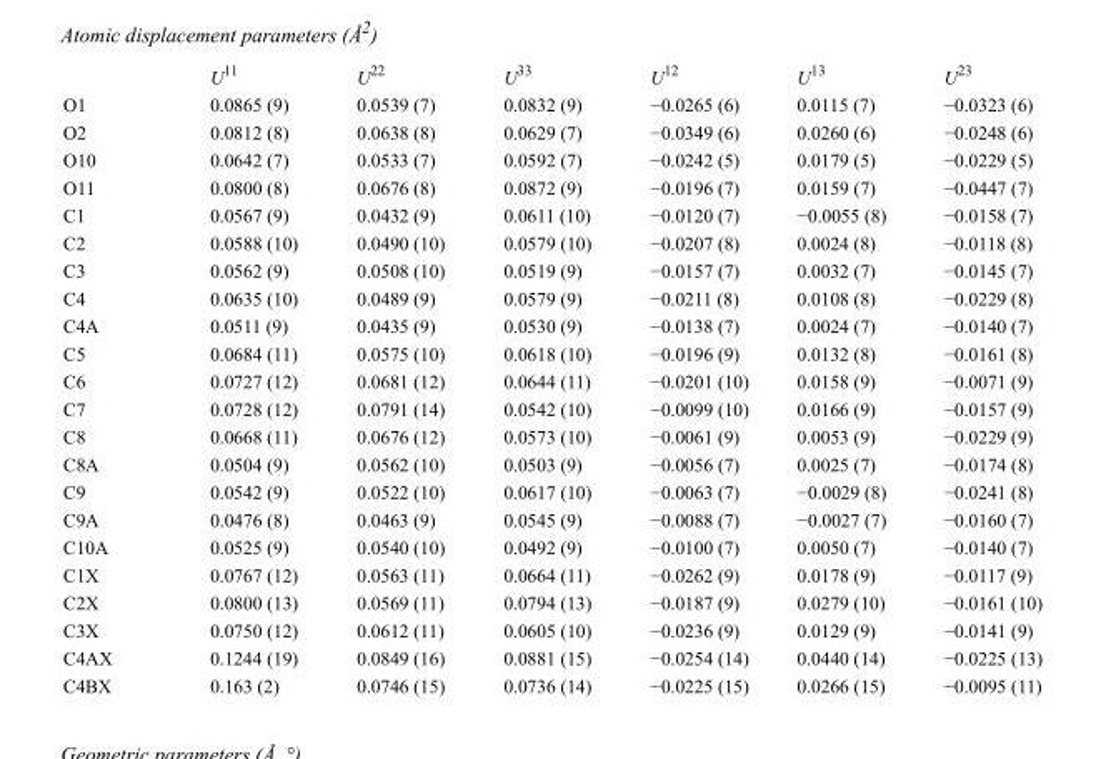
<table><thead><tr><td></td><td>U<sup>11</sup></td><td>U<sup>22</sup></td><td>U<sup>33</sup></td><td>U<sup>12</sup></td><td>U<sup>13</sup></td><td>U<sup>23</sup></td></tr></thead><tbody><tr><td>O1</td><td>0.0865 (9)</td><td>0.0539 (7)</td><td>0.0832 (9)</td><td>−0.0265 (6)</td><td>0.0115 (7)</td><td>−0.0323 (6)</td></tr><tr><td>O2</td><td>0.0812 (8)</td><td>0.0638 (8)</td><td>0.0629 (7)</td><td>−0.0349 (6)</td><td>0.0260 (6)</td><td>−0.0248 (6)</td></tr><tr><td>O10</td><td>0.0642 (7)</td><td>0.0533 (7)</td><td>0.0592 (7)</td><td>−0.0242 (5)</td><td>0.0179 (5)</td><td>−0.0229 (5)</td></tr><tr><td>O11</td><td>0.0800 (8)</td><td>0.0676 (8)</td><td>0.0872 (9)</td><td>−0.0196 (7)</td><td>0.0159 (7)</td><td>−0.0447 (7)</td></tr><tr><td>C1</td><td>0.0567 (9)</td><td>0.0432 (9)</td><td>0.0611 (10)</td><td>−0.0120 (7)</td><td>−0.0055 (8)</td><td>−0.0158 (7)</td></tr><tr><td>C2</td><td>0.0588 (10)</td><td>0.0490 (10)</td><td>0.0579 (10)</td><td>−0.0207 (8)</td><td>0.0024 (8)</td><td>−0.0118 (8)</td></tr><tr><td>C3</td><td>0.0562 (9)</td><td>0.0508 (10)</td><td>0.0519 (9)</td><td>−0.0157 (7)</td><td>0.0032 (7)</td><td>−0.0145 (7)</td></tr><tr><td>C4</td><td>0.0635 (10)</td><td>0.0489 (9)</td><td>0.0579 (9)</td><td>−0.0211 (8)</td><td>0.0108 (8)</td><td>−0.0229 (8)</td></tr><tr><td>C4A</td><td>0.0511 (9)</td><td>0.0435 (9)</td><td>0.0530 (9)</td><td>−0.0138 (7)</td><td>0.0024 (7)</td><td>−0.0140 (7)</td></tr><tr><td>C5</td><td>0.0684 (11)</td><td>0.0575 (10)</td><td>0.0618 (10)</td><td>−0.0196 (9)</td><td>0.0132 (8)</td><td>−0.0161 (8)</td></tr><tr><td>C6</td><td>0.0727 (12)</td><td>0.0681 (12)</td><td>0.0644 (11)</td><td>−0.0201 (10)</td><td>0.0158 (9)</td><td>−0.0071 (9)</td></tr><tr><td>C7</td><td>0.0728 (12)</td><td>0.0791 (14)</td><td>0.0542 (10)</td><td>−0.0099 (10)</td><td>0.0166 (9)</td><td>−0.0157 (9)</td></tr><tr><td>C8</td><td>0.0668 (11)</td><td>0.0676 (12)</td><td>0.0573 (10)</td><td>−0.0061 (9)</td><td>0.0053 (9)</td><td>−0.0229 (9)</td></tr><tr><td>C8A</td><td>0.0504 (9)</td><td>0.0562 (10)</td><td>0.0503 (9)</td><td>−0.0056 (7)</td><td>0.0025 (7)</td><td>−0.0174 (8)</td></tr><tr><td>C9</td><td>0.0542 (9)</td><td>0.0522 (10)</td><td>0.0617 (10)</td><td>−0.0063 (7)</td><td>−0.0029 (8)</td><td>−0.0241 (8)</td></tr><tr><td>C9A</td><td>0.0476 (8)</td><td>0.0463 (9)</td><td>0.0545 (9)</td><td>−0.0088 (7)</td><td>−0.0027 (7)</td><td>−0.0160 (7)</td></tr><tr><td>C10A</td><td>0.0525 (9)</td><td>0.0540 (10)</td><td>0.0492 (9)</td><td>−0.0100 (7)</td><td>0.0050 (7)</td><td>−0.0140 (7)</td></tr><tr><td>C1X</td><td>0.0767 (12)</td><td>0.0563 (11)</td><td>0.0664 (11)</td><td>−0.0262 (9)</td><td>0.0178 (9)</td><td>−0.0117 (9)</td></tr><tr><td>C2X</td><td>0.0800 (13)</td><td>0.0569 (11)</td><td>0.0794 (13)</td><td>−0.0187 (9)</td><td>0.0279 (10)</td><td>−0.0161 (10)</td></tr><tr><td>C3X</td><td>0.0750 (12)</td><td>0.0612 (11)</td><td>0.0605 (10)</td><td>−0.0236 (9)</td><td>0.0129 (9)</td><td>−0.0141 (9)</td></tr><tr><td>C4AX</td><td>0.1244 (19)</td><td>0.0849 (16)</td><td>0.0881 (15)</td><td>−0.0254 (14)</td><td>0.0440 (14)</td><td>−0.0225 (13)</td></tr><tr><td>C4BX</td><td>0.163 (2)</td><td>0.0746 (15)</td><td>0.0736 (14)</td><td>−0.0225 (15)</td><td>0.0266 (15)</td><td>−0.0095 (11)</td></tr></tbody></table>